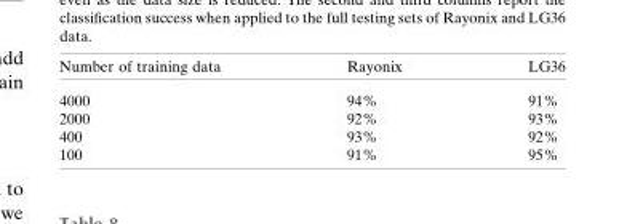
<table><thead><tr><td>Number of training data</td><td>Rayonix</td><td>LG36</td></tr></thead><tbody><tr><td>4000</td><td>94%</td><td>91%</td></tr><tr><td>2000</td><td>92%</td><td>93%</td></tr><tr><td>400</td><td>93%</td><td>92%</td></tr><tr><td>100</td><td>91%</td><td>95%</td></tr></tbody></table>